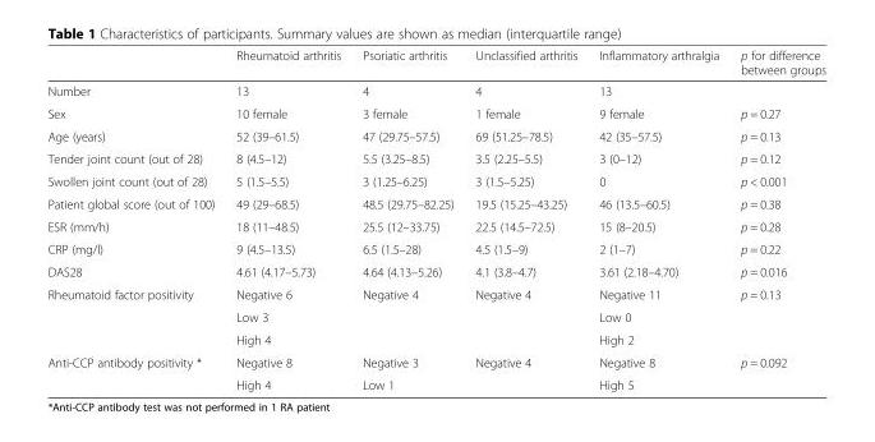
<table><thead><tr><td></td><td>Rheumatoid arthritis</td><td>Psoriatic arthritis</td><td>Unclassified arthritis</td><td>Inflammatory arthralgia</td><td>p for difference between groups</td></tr></thead><tbody><tr><td>Number</td><td>13</td><td>4</td><td>4</td><td>13</td><td></td></tr><tr><td>Sex</td><td>10 female</td><td>3 female</td><td>1 female</td><td>9 female</td><td>p = 0.27</td></tr><tr><td>Age (years)</td><td>52 (39–61.5)</td><td>47 (29.75–57.5)</td><td>69 (51.25–78.5)</td><td>42 (35–57.5)</td><td>p = 0.13</td></tr><tr><td>Tender joint count (out of 28)</td><td>8 (4.5–12)</td><td>5.5 (3.25–8.5)</td><td>3.5 (2.25–5.5)</td><td>3 (0–12)</td><td>p = 0.12</td></tr><tr><td>Swollen joint count (out of 28)</td><td>5 (1.5–5.5)</td><td>3 (1.25–6.25)</td><td>3 (1.5–5.25)</td><td>0</td><td>p &lt; 0.001</td></tr><tr><td>Patient global score (out of 100)</td><td>49 (29–68.5)</td><td>48.5 (29.75–82.25)</td><td>19.5 (15.25–43.25)</td><td>46 (13.5–60.5)</td><td>p = 0.38</td></tr><tr><td>ESR (mm/h)</td><td>18 (11–48.5)</td><td>25.5 (12–33.75)</td><td>22.5 (14.5–72.5)</td><td>15 (8–20.5)</td><td>p = 0.28</td></tr><tr><td>CRP (mg/l)</td><td>9 (4.5–13.5)</td><td>6.5 (1.5–28)</td><td>4.5 (1.5–9)</td><td>2 (1–7)</td><td>p = 0.22</td></tr><tr><td>DAS28</td><td>4.61 (4.17–5.73)</td><td>4.64 (4.13–5.26)</td><td>4.1 (3.8–4.7)</td><td>3.61 (2.18–4.70)</td><td>p = 0.016</td></tr><tr><td rowspan="3">Rheumatoid factor positivity</td><td>Negative 6</td><td rowspan="3">Negative 4</td><td rowspan="3">Negative 4</td><td>Negative 11</td><td rowspan="3">p = 0.13</td></tr><tr><td>Low 3</td><td>Low 0</td></tr><tr><td>High 4</td><td>High 2</td></tr><tr><td rowspan="2">Anti-CCP antibody positivity *</td><td>Negative 8</td><td>Negative 3</td><td rowspan="2">Negative 4</td><td>Negative 8</td><td rowspan="2">p = 0.092</td></tr><tr><td>High 4</td><td>Low 1</td><td>High 5</td></tr></tbody></table>